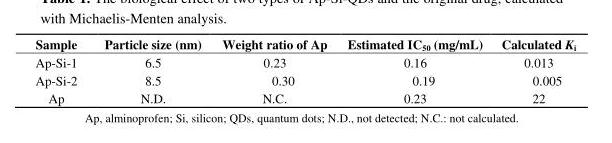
<table><thead><tr><td>Sample</td><td>Particle size (nm)</td><td>Weight ratio of Ap</td><td>Estimated IC<sub>50</sub> (mg/mL)</td><td>Calculated K<sub>i</sub></td></tr></thead><tbody><tr><td>Ap-Si-1</td><td>6.5</td><td>0.23</td><td>0.16</td><td>0.013</td></tr><tr><td>Ap-Si-2</td><td>8.5</td><td>0.30</td><td>0.19</td><td>0.005</td></tr><tr><td>Ap</td><td>N.D.</td><td>N.C.</td><td>0.23</td><td>22</td></tr></tbody></table>